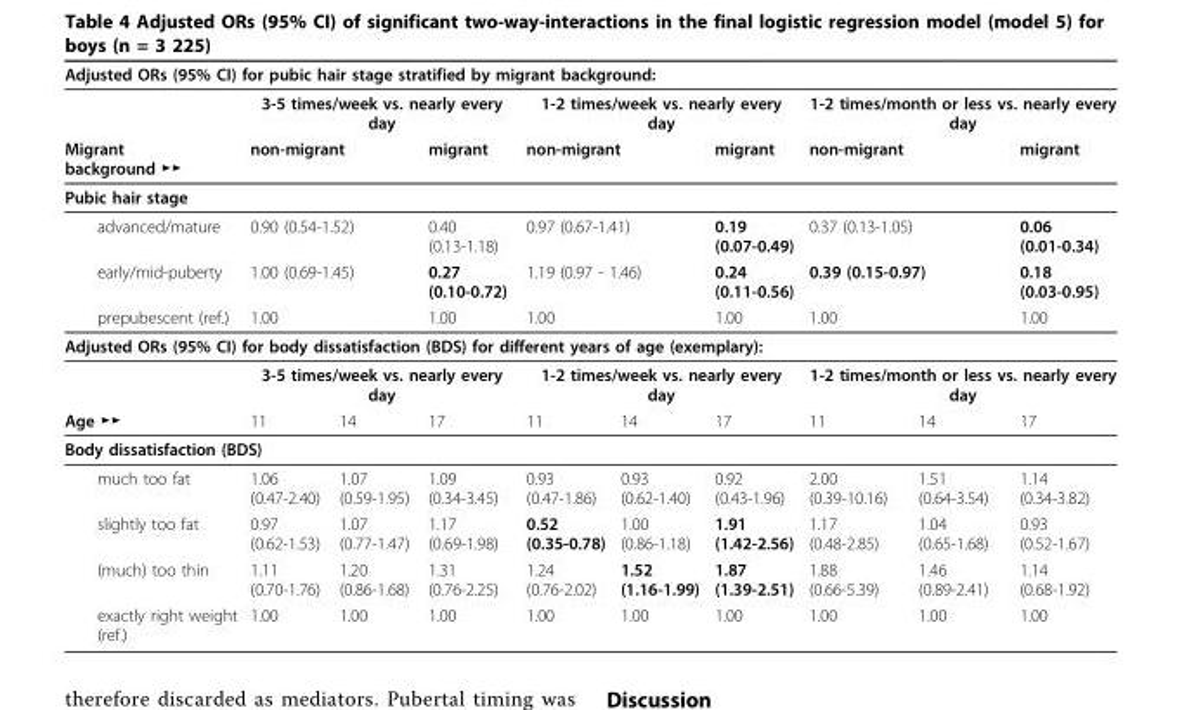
<table><thead><tr><td colspan="10">Adjusted ORs (95% CI) for pubic hair stage stratified by migrant background:</td></tr></thead><tbody><tr><td></td><td colspan="3">3-5 times/week vs. nearly every day</td><td colspan="3">1-2 times/week vs. nearly every day</td><td colspan="3">1-2 times/month or less vs. nearly every day</td></tr><tr><td>Migrant background ►►</td><td colspan="2">non-migrant</td><td>migrant</td><td colspan="2">non-migrant</td><td>migrant</td><td colspan="2">non-migrant</td><td>migrant</td></tr><tr><td colspan="10">Pubic hair stage</td></tr><tr><td>advanced/mature</td><td colspan="2">0.90 (0.54-1.52)</td><td>0.40 (0.13-1.18)</td><td colspan="2">0.97 (0.67-1.41)</td><td>0.19 (0.07-0.49)</td><td colspan="2">0.37 (0.13-1.05)</td><td>0.06 (0.01-0.34)</td></tr><tr><td>early/mid-puberty</td><td colspan="2">1.00 (0.69-1.45)</td><td>0.27 (0.10-0.72)</td><td colspan="2">1.19 (0.97 - 1.46)</td><td>0.24 (0.11-0.56)</td><td colspan="2">0.39 (0.15-0.97)</td><td>0.18 (0.03-0.95)</td></tr><tr><td>prepubescent (ref.)</td><td colspan="2">1.00</td><td>1.00</td><td colspan="2">1.00</td><td>1.00</td><td colspan="2">1.00</td><td>1.00</td></tr><tr><td colspan="10">Adjusted ORs (95% CI) for body dissatisfaction (BDS) for different years of age (exemplary):</td></tr><tr><td></td><td colspan="3">3-5 times/week vs. nearly every day</td><td colspan="3">1-2 times/week vs. nearly every day</td><td colspan="3">1-2 times/month or less vs. nearly every day</td></tr><tr><td>Age ►►</td><td>11</td><td>14</td><td>17</td><td>11</td><td>14</td><td>17</td><td>11</td><td>14</td><td>17</td></tr><tr><td colspan="10">Body dissatisfaction (BDS)</td></tr><tr><td>much too fat</td><td>1.06 (0.47-2.40)</td><td>1.07 (0.59-1.95)</td><td>1.09 (0.34-3.45)</td><td>0.93 (0.47-1.86)</td><td>0.93 (0.62-1.40)</td><td>0.92 (0.43-1.96)</td><td>2.00 (0.39-10.16)</td><td>1.51 (0.64-3.54)</td><td>1.14 (0.34-3.82)</td></tr><tr><td>slightly too fat</td><td>0.97 (0.62-1.53)</td><td>1.07 (0.77-1.47)</td><td>1.17 (0.69-1.98)</td><td>0.52 (0.35-0.78)</td><td>1.00 (0.86-1.18)</td><td>1.91 (1.42-2.56)</td><td>1.17 (0.48-2.85)</td><td>1.04 (0.65-1.68)</td><td>0.93 (0.52-1.67)</td></tr><tr><td>(much) too thin</td><td>1.11 (0.70-1.76)</td><td>1.20 (0.86-1.68)</td><td>1.31 (0.76-2.25)</td><td>1.24 (0.76-2.02)</td><td>1.52 (1.16-1.99)</td><td>1.87 (1.39-2.51)</td><td>1.88 (0.66-5.39)</td><td>1.46 (0.89-2.41)</td><td>1.14 (0.68-1.92)</td></tr><tr><td>exactly right weight (ref.)</td><td>1.00</td><td>1.00</td><td>1.00</td><td>1.00</td><td>1.00</td><td>1.00</td><td>1.00</td><td>1.00</td><td>1.00</td></tr></tbody></table>